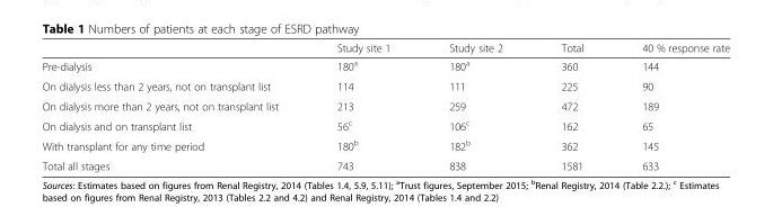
<table><thead><tr><td></td><td>Study site 1</td><td>Study site 2</td><td>Total</td><td>40 % response rate</td></tr></thead><tbody><tr><td>Pre-dialysis</td><td>180<sup>a</sup></td><td>180<sup>a</sup></td><td>360</td><td>144</td></tr><tr><td>On dialysis less than 2 years, not on transplant list</td><td>114</td><td>111</td><td>225</td><td>90</td></tr><tr><td>On dialysis more than 2 years, not on transplant list</td><td>213</td><td>259</td><td>472</td><td>189</td></tr><tr><td>On dialysis and on transplant list</td><td>56<sup>c</sup></td><td>106<sup>c</sup></td><td>162</td><td>65</td></tr><tr><td>With transplant for any time period</td><td>180<sup>b</sup></td><td>182<sup>b</sup></td><td>362</td><td>145</td></tr><tr><td>Total all stages</td><td>743</td><td>838</td><td>1581</td><td>633</td></tr></tbody></table>